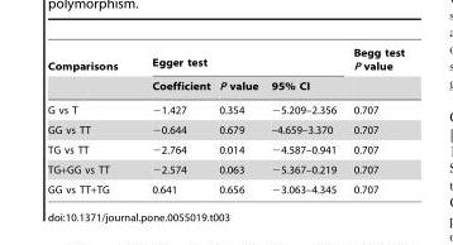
<table><thead><tr><td rowspan="2">Comparisons</td><td colspan="3">Egger test</td><td rowspan="2">Begg test P value</td></tr><tr><td>Coefficient</td><td>P value</td><td>95% CI</td></tr></thead><tbody><tr><td>G vs T</td><td>−1.427</td><td>0.354</td><td>−5.209–2.356</td><td>0.707</td></tr><tr><td>GG vs TT</td><td>−0.644</td><td>0.679</td><td>–4.659–3.370</td><td>0.707</td></tr><tr><td>TG vs TT</td><td>−2.764</td><td>0.014</td><td>−4.587–0.941</td><td>0.707</td></tr><tr><td>TG+GG vs TT</td><td>−2.574</td><td>0.063</td><td>−5.367–0.219</td><td>0.707</td></tr><tr><td>GG vs TT+TG</td><td>0.641</td><td>0.656</td><td>−3.063–4.345</td><td>0.707</td></tr></tbody></table>